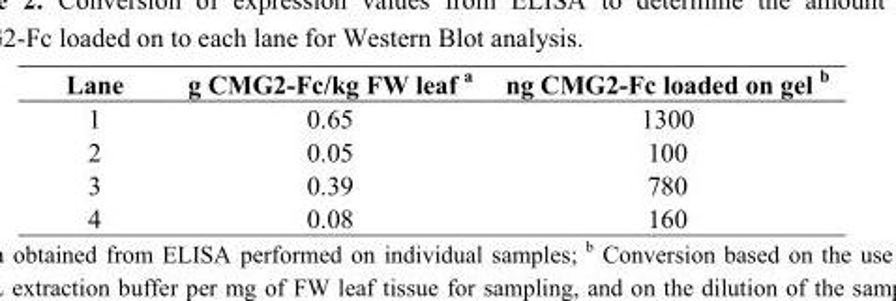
<table><thead><tr><td>Lane</td><td>g CMG2-Fc/kg FW leaf <sup>a</sup></td><td>ng CMG2-Fc loaded on gel <sup>b</sup></td></tr></thead><tbody><tr><td>1</td><td>0.65</td><td>1300</td></tr><tr><td>2</td><td>0.05</td><td>100</td></tr><tr><td>3</td><td>0.39</td><td>780</td></tr><tr><td>4</td><td>0.08</td><td>160</td></tr></tbody></table>